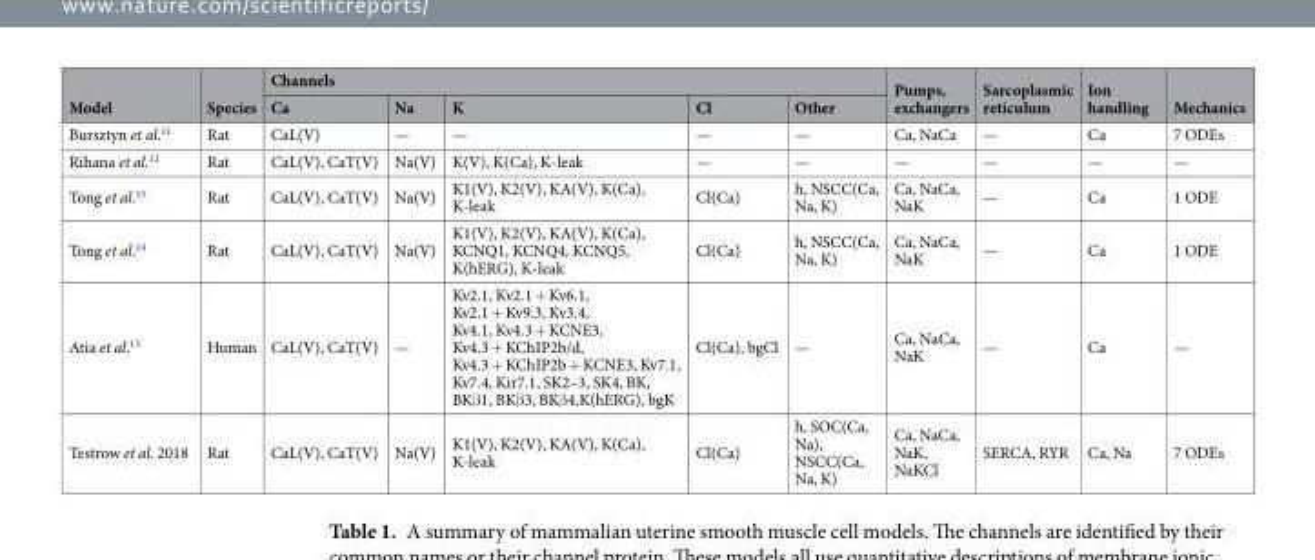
<table><thead><tr><td rowspan="2">Model</td><td rowspan="2">Species</td><td colspan="5">Channels</td><td rowspan="2">Pumps, exchangers</td><td rowspan="2">Sarcoplasmic reticulum</td><td rowspan="2">Ion handling</td><td rowspan="2">Mechanics</td></tr><tr><td>Ca</td><td>Na</td><td>K</td><td>Cl</td><td>Other</td></tr></thead><tbody><tr><td>Bursztyn et al.<sup>11</sup></td><td>Rat</td><td>CaL(V)</td><td>—</td><td>—</td><td>—</td><td>—</td><td>Ca, NaCa</td><td>—</td><td>Ca</td><td>7 ODEs</td></tr><tr><td>Rihana et al.<sup>12</sup></td><td>Rat</td><td>CaL(V), CaT(V)</td><td>Na(V)</td><td>K(V), K(Ca), K-leak</td><td>—</td><td>—</td><td>—</td><td>—</td><td>—</td><td>—</td></tr><tr><td>Tong et al.<sup>13</sup></td><td>Rat</td><td>CaL(V), CaT(V)</td><td>Na(V)</td><td>K1(V), K2(V), KA(V), K(Ca), K-leak</td><td>Cl(Ca)</td><td>h, NSCC(Ca, Na, K)</td><td>Ca, NaCa, NaK</td><td>—</td><td>Ca</td><td>1 ODE</td></tr><tr><td>Tong et al.<sup>14</sup></td><td>Rat</td><td>CaL(V), CaT(V)</td><td>Na(V)</td><td>K1(V), K2(V), KA(V), K(Ca), KCNQ1, KCNQ4, KCNQ5, K(hERG), K-leak</td><td>Cl(Ca)</td><td>h, NSCC(Ca, Na, K)</td><td>Ca, NaCa, NaK</td><td>—</td><td>Ca</td><td>1 ODE</td></tr><tr><td>Atia et al.<sup>15</sup></td><td>Human</td><td>CaL(V), CaT(V)</td><td>—</td><td>Kv2.1, Kv2.1 + Kv6.1, Kv2.1 + Kv9.3, Kv3.4, Kv4.1, Kv4.3 + KCNE3, Kv4.3 + KChIP2b/d, Kv4.3 + KChIP2b + KCNE3, Kv7.1, Kv7.4, Kir7.1, SK2–3, SK4, BK, BKβ1, BKβ3, BKβ4,K(hERG), bgK</td><td>Cl(Ca), bgCl</td><td>—</td><td>Ca, NaCa, NaK</td><td>—</td><td>Ca</td><td>—</td></tr><tr><td>Testrow et al. 2018</td><td>Rat</td><td>CaL(V), CaT(V)</td><td>Na(V)</td><td>K1(V), K2(V), KA(V), K(Ca), K-leak</td><td>Cl(Ca)</td><td>h, SOC(Ca, Na), NSCC(Ca, Na, K)</td><td>Ca, NaCa, NaK, NaKCl</td><td>SERCA, RYR</td><td>Ca, Na</td><td>7 ODEs</td></tr></tbody></table>